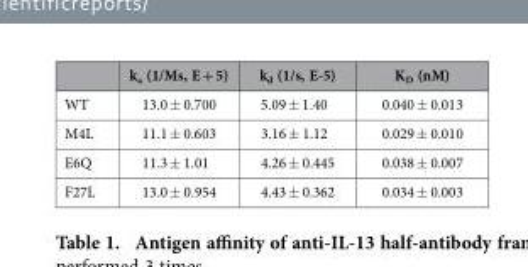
<table><thead><tr><td></td><td>k<sub>a</sub> (1/Ms, E + 5)</td><td>k<sub>d</sub> (1/s, E-5)</td><td>K<sub>D</sub> (nM)</td></tr></thead><tbody><tr><td>WT</td><td>13.0 ± 0.700</td><td>5.09 ± 1.40</td><td>0.040 ± 0.013</td></tr><tr><td>M4L</td><td>11.1 ± 0.603</td><td>3.16 ± 1.12</td><td>0.029 ± 0.010</td></tr><tr><td>E6Q</td><td>11.3 ± 1.01</td><td>4.26 ± 0.445</td><td>0.038 ± 0.007</td></tr><tr><td>F27L</td><td>13.0 ± 0.954</td><td>4.43 ± 0.362</td><td>0.034 ± 0.003</td></tr></tbody></table>